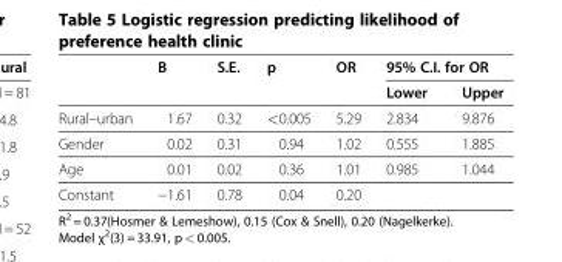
<table><thead><tr><td rowspan="2"></td><td rowspan="2">B</td><td rowspan="2">S.E.</td><td rowspan="2">p</td><td rowspan="2">OR</td><td colspan="2">95% C.I. for OR</td></tr><tr><td>Lower</td><td>Upper</td></tr></thead><tbody><tr><td>Rural–urban</td><td>1.67</td><td>0.32</td><td>&lt;0.005</td><td>5.29</td><td>2.834</td><td>9.876</td></tr><tr><td>Gender</td><td>0.02</td><td>0.31</td><td>0.94</td><td>1.02</td><td>0.555</td><td>1.885</td></tr><tr><td>Age</td><td>0.01</td><td>0.02</td><td>0.36</td><td>1.01</td><td>0.985</td><td>1.044</td></tr><tr><td>Constant</td><td>−1.61</td><td>0.78</td><td>0.04</td><td>0.20</td><td></td><td></td></tr></tbody></table>